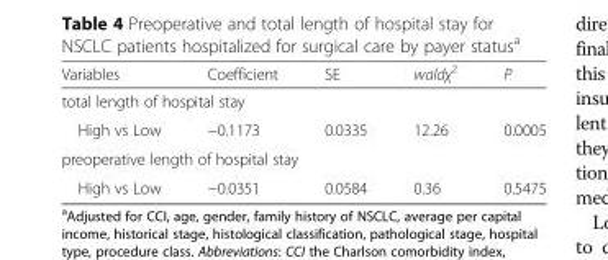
<table><thead><tr><td>Variables</td><td>Coefficient</td><td>SE</td><td>waldχ<sup>2</sup></td><td>P</td></tr></thead><tbody><tr><td colspan="5">total length of hospital stay</td></tr><tr><td>High vs Low</td><td>−0.1173</td><td>0.0335</td><td>12.26</td><td>0.0005</td></tr><tr><td colspan="5">preoperative length of hospital stay</td></tr><tr><td>High vs Low</td><td>−0.0351</td><td>0.0584</td><td>0.36</td><td>0.5475</td></tr></tbody></table>